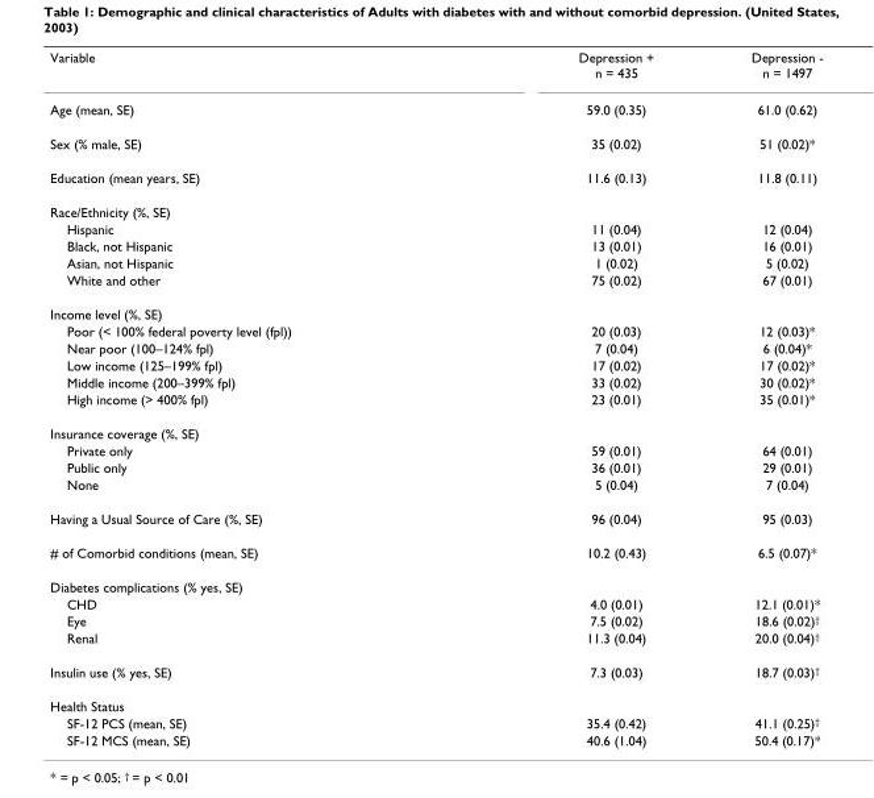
<table><tbody><tr><td>Variable</td><td>Depression + n = 435</td><td>Depression - n = 1497</td></tr><tr><td>Age (mean, SE)</td><td>59.0 (0.35)</td><td>61.0 (0.62)</td></tr><tr><td>Sex (% male, SE)</td><td>35 (0.02)</td><td>51 (0.02)*</td></tr><tr><td>Education (mean years, SE)</td><td>11.6 (0.13)</td><td>11.8 (0.11)</td></tr><tr><td colspan="3">Race/Ethnicity (%, SE)</td></tr><tr><td>Hispanic</td><td>11 (0.04)</td><td>12 (0.04)</td></tr><tr><td>Black, not Hispanic</td><td>13 (0.01)</td><td>16 (0.01)</td></tr><tr><td>Asian, not Hispanic</td><td>1 (0.02)</td><td>5 (0.02)</td></tr><tr><td>White and other</td><td>75 (0.02)</td><td>67 (0.01)</td></tr><tr><td colspan="3">Income level (%, SE)</td></tr><tr><td>Poor (&lt; 100% federal poverty level (fpl))</td><td>20 (0.03)</td><td>12 (0.03)*</td></tr><tr><td>Near poor (100–124% fpl)</td><td>7 (0.04)</td><td>6 (0.04)*</td></tr><tr><td>Low income (125–199% fpl)</td><td>17 (0.02)</td><td>17 (0.02)*</td></tr><tr><td>Middle income (200–399% fpl)</td><td>33 (0.02)</td><td>30 (0.02)*</td></tr><tr><td>High income (&gt; 400% fpl)</td><td>23 (0.01)</td><td>35 (0.01)*</td></tr><tr><td colspan="3">Insurance coverage (%, SE)</td></tr><tr><td>Private only</td><td>59 (0.01)</td><td>64 (0.01)</td></tr><tr><td>Public only</td><td>36 (0.01)</td><td>29 (0.01)</td></tr><tr><td>None</td><td>5 (0.04)</td><td>7 (0.04)</td></tr><tr><td>Having a Usual Source of Care (%, SE)</td><td>96 (0.04)</td><td>95 (0.03)</td></tr><tr><td># of Comorbid conditions (mean, SE)</td><td>10.2 (0.43)</td><td>6.5 (0.07)*</td></tr><tr><td colspan="3">Diabetes complications (% yes, SE)</td></tr><tr><td>CHD</td><td>4.0 (0.01)</td><td>12.1 (0.01)*</td></tr><tr><td>Eye</td><td>7.5 (0.02)</td><td>18.6 (0.02)<sup>†</sup></td></tr><tr><td>Renal</td><td>11.3 (0.04)</td><td>20.0 (0.04)<sup>†</sup></td></tr><tr><td>Insulin use (% yes, SE)</td><td>7.3 (0.03)</td><td>18.7 (0.03)<sup>†</sup></td></tr><tr><td colspan="3">Health Status</td></tr><tr><td>SF-12 PCS (mean, SE)</td><td>35.4 (0.42)</td><td>41.1 (0.25)<sup>†</sup></td></tr><tr><td>SF-12 MCS (mean, SE)</td><td>40.6 (1.04)</td><td>50.4 (0.17)*</td></tr></tbody></table>